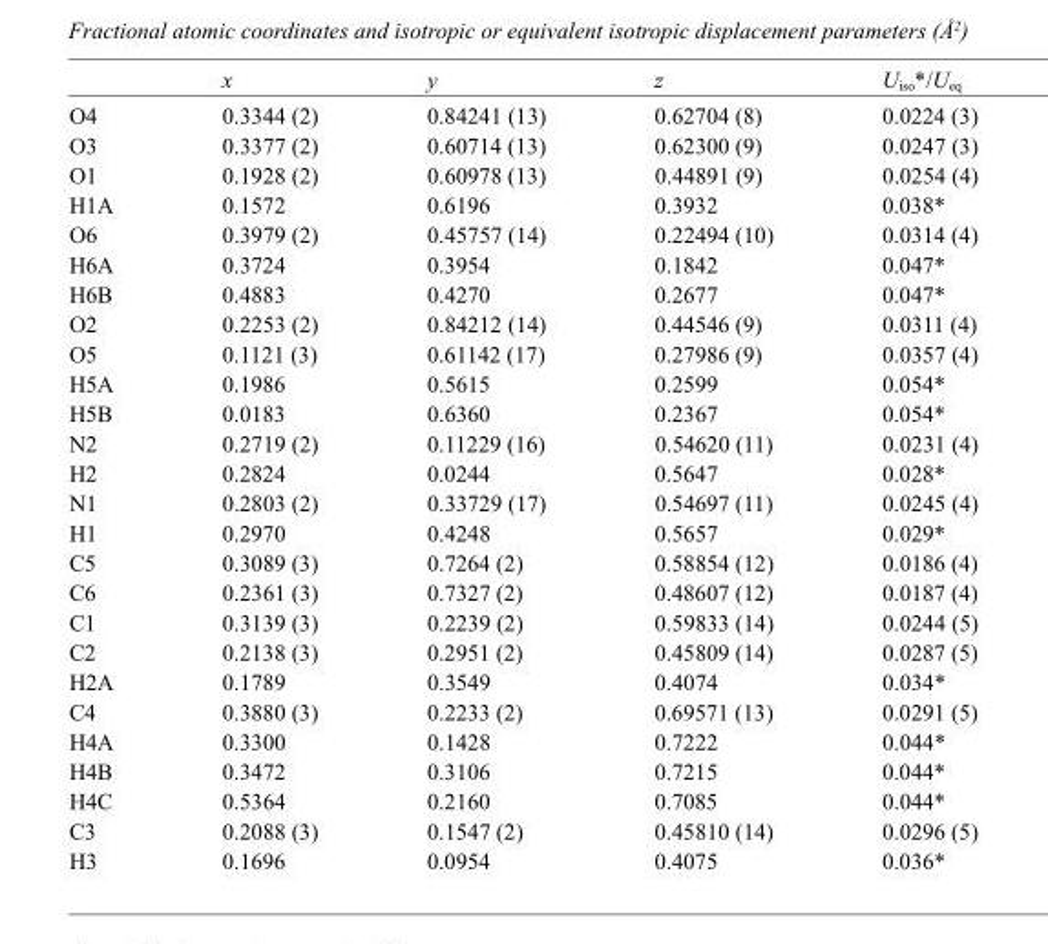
<table><thead><tr><td></td><td>x</td><td>y</td><td>z</td><td>U<sub>iso</sub>*/U<sub>eq</sub></td></tr></thead><tbody><tr><td>O4</td><td>0.3344 (2)</td><td>0.84241 (13)</td><td>0.62704 (8)</td><td>0.0224 (3)</td></tr><tr><td>O3</td><td>0.3377 (2)</td><td>0.60714 (13)</td><td>0.62300 (9)</td><td>0.0247 (3)</td></tr><tr><td>O1</td><td>0.1928 (2)</td><td>0.60978 (13)</td><td>0.44891 (9)</td><td>0.0254 (4)</td></tr><tr><td>H1A</td><td>0.1572</td><td>0.6196</td><td>0.3932</td><td>0.038*</td></tr><tr><td>O6</td><td>0.3979 (2)</td><td>0.45757 (14)</td><td>0.22494 (10)</td><td>0.0314 (4)</td></tr><tr><td>H6A</td><td>0.3724</td><td>0.3954</td><td>0.1842</td><td>0.047*</td></tr><tr><td>H6B</td><td>0.4883</td><td>0.4270</td><td>0.2677</td><td>0.047*</td></tr><tr><td>O2</td><td>0.2253 (2)</td><td>0.84212 (14)</td><td>0.44546 (9)</td><td>0.0311 (4)</td></tr><tr><td>O5</td><td>0.1121 (3)</td><td>0.61142 (17)</td><td>0.27986 (9)</td><td>0.0357 (4)</td></tr><tr><td>H5A</td><td>0.1986</td><td>0.5615</td><td>0.2599</td><td>0.054*</td></tr><tr><td>H5B</td><td>0.0183</td><td>0.6360</td><td>0.2367</td><td>0.054*</td></tr><tr><td>N2</td><td>0.2719 (2)</td><td>0.11229 (16)</td><td>0.54620 (11)</td><td>0.0231 (4)</td></tr><tr><td>H2</td><td>0.2824</td><td>0.0244</td><td>0.5647</td><td>0.028*</td></tr><tr><td>N1</td><td>0.2803 (2)</td><td>0.33729 (17)</td><td>0.54697 (11)</td><td>0.0245 (4)</td></tr><tr><td>H1</td><td>0.2970</td><td>0.4248</td><td>0.5657</td><td>0.029*</td></tr><tr><td>C5</td><td>0.3089 (3)</td><td>0.7264 (2)</td><td>0.58854 (12)</td><td>0.0186 (4)</td></tr><tr><td>C6</td><td>0.2361 (3)</td><td>0.7327 (2)</td><td>0.48607 (12)</td><td>0.0187 (4)</td></tr><tr><td>C1</td><td>0.3139 (3)</td><td>0.2239 (2)</td><td>0.59833 (14)</td><td>0.0244 (5)</td></tr><tr><td>C2</td><td>0.2138 (3)</td><td>0.2951 (2)</td><td>0.45809 (14)</td><td>0.0287 (5)</td></tr><tr><td>H2A</td><td>0.1789</td><td>0.3549</td><td>0.4074</td><td>0.034*</td></tr><tr><td>C4</td><td>0.3880 (3)</td><td>0.2233 (2)</td><td>0.69571 (13)</td><td>0.0291 (5)</td></tr><tr><td>H4A</td><td>0.3300</td><td>0.1428</td><td>0.7222</td><td>0.044*</td></tr><tr><td>H4B</td><td>0.3472</td><td>0.3106</td><td>0.7215</td><td>0.044*</td></tr><tr><td>H4C</td><td>0.5364</td><td>0.2160</td><td>0.7085</td><td>0.044*</td></tr><tr><td>C3</td><td>0.2088 (3)</td><td>0.1547 (2)</td><td>0.45810 (14)</td><td>0.0296 (5)</td></tr><tr><td>H3</td><td>0.1696</td><td>0.0954</td><td>0.4075</td><td>0.036*</td></tr></tbody></table>